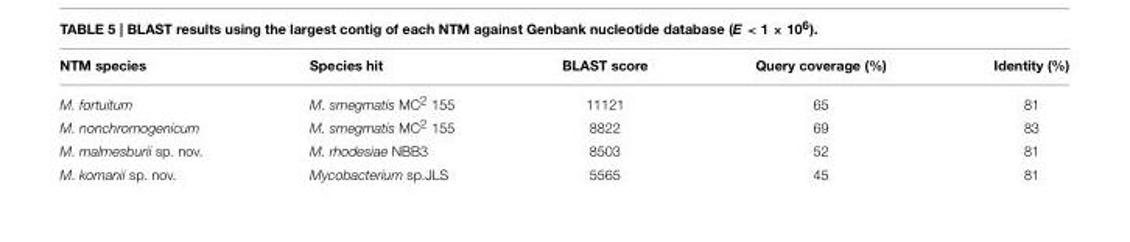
<table><thead><tr><td>NTM species</td><td>Species hit</td><td>BLAST score</td><td>Query coverage (%)</td><td>Identity (%)</td></tr></thead><tbody><tr><td>M. fortuitum</td><td>M. smegmatis MC<sup>2</sup> 155</td><td>11121</td><td>65</td><td>81</td></tr><tr><td>M. nonchromogenicum</td><td>M. smegmatis MC<sup>2</sup> 155</td><td>8822</td><td>69</td><td>83</td></tr><tr><td>M. malmesburii sp. nov.</td><td>M. rhodesiae NBB3</td><td>8503</td><td>52</td><td>81</td></tr><tr><td>M. komanii sp. nov.</td><td>Mycobacterium sp.JLS</td><td>5565</td><td>45</td><td>81</td></tr></tbody></table>